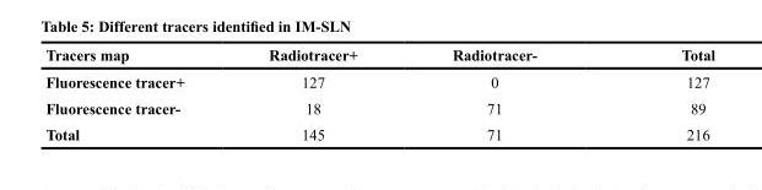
<table><thead><tr><td>Tracers map</td><td>Radiotracer+</td><td>Radiotracer-</td><td>Total</td></tr></thead><tbody><tr><td>Fluorescence tracer+</td><td>127</td><td>0</td><td>127</td></tr><tr><td>Fluorescence tracer-</td><td>18</td><td>71</td><td>89</td></tr><tr><td>Total</td><td>145</td><td>71</td><td>216</td></tr></tbody></table>